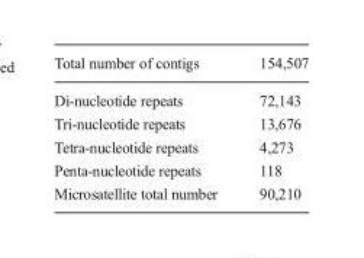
<table><thead><tr><td>Total number of contigs</td><td>154,507</td></tr></thead><tbody><tr><td>Di-nucleotide repeats</td><td>72,143</td></tr><tr><td>Tri-nucleotide repeats</td><td>13,676</td></tr><tr><td>Tetra-nucleotide repeats</td><td>4,273</td></tr><tr><td>Penta-nucleotide repeats</td><td>118</td></tr><tr><td>Microsatellite total number</td><td>90,210</td></tr></tbody></table>